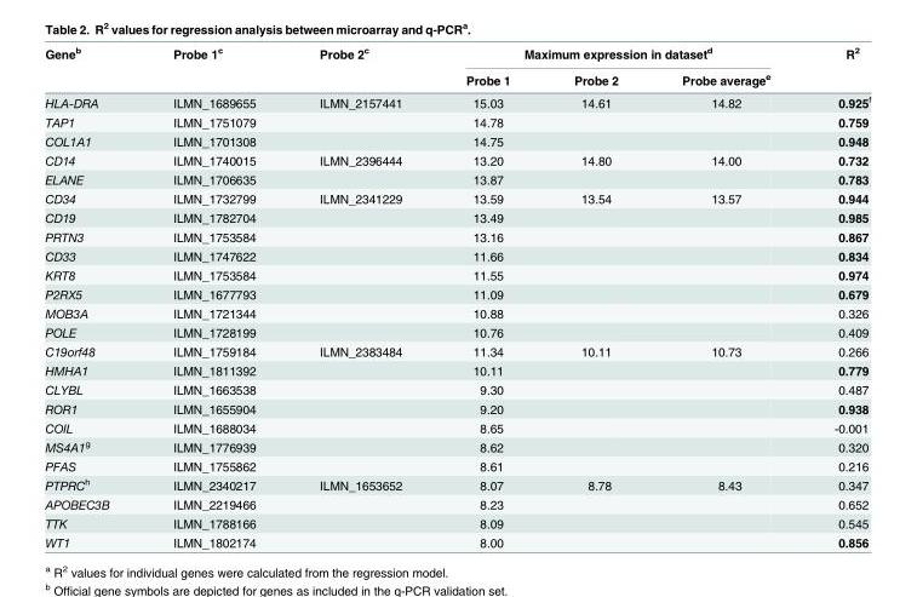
<table><thead><tr><td rowspan="2">Gene<sup>b</sup></td><td rowspan="2">Probe 1<sup>c</sup></td><td rowspan="2">Probe 2<sup>c</sup></td><td colspan="3">Maximum expression in dataset<sup>d</sup></td><td rowspan="2">R<sup>2</sup></td></tr><tr><td>Probe 1</td><td>Probe 2</td><td>Probe average<sup>e</sup></td></tr></thead><tbody><tr><td>HLA-DRA</td><td>ILMN_1689655</td><td>ILMN_2157441</td><td>15.03</td><td>14.61</td><td>14.82</td><td>0.925<sup>f</sup></td></tr><tr><td>TAP1</td><td>ILMN_1751079</td><td></td><td>14.78</td><td></td><td></td><td>0.759</td></tr><tr><td>COL1A1</td><td>ILMN_1701308</td><td></td><td>14.75</td><td></td><td></td><td>0.948</td></tr><tr><td>CD14</td><td>ILMN_1740015</td><td>ILMN_2396444</td><td>13.20</td><td>14.80</td><td>14.00</td><td>0.732</td></tr><tr><td>ELANE</td><td>ILMN_1706635</td><td></td><td>13.87</td><td></td><td></td><td>0.783</td></tr><tr><td>CD34</td><td>ILMN_1732799</td><td>ILMN_2341229</td><td>13.59</td><td>13.54</td><td>13.57</td><td>0.944</td></tr><tr><td>CD19</td><td>ILMN_1782704</td><td></td><td>13.49</td><td></td><td></td><td>0.985</td></tr><tr><td>PRTN3</td><td>ILMN_1753584</td><td></td><td>13.16</td><td></td><td></td><td>0.867</td></tr><tr><td>CD33</td><td>ILMN_1747622</td><td></td><td>11.66</td><td></td><td></td><td>0.834</td></tr><tr><td>KRT8</td><td>ILMN_1753584</td><td></td><td>11.55</td><td></td><td></td><td>0.974</td></tr><tr><td>P2RX5</td><td>ILMN_1677793</td><td></td><td>11.09</td><td></td><td></td><td>0.679</td></tr><tr><td>MOB3A</td><td>ILMN_1721344</td><td></td><td>10.88</td><td></td><td></td><td>0.326</td></tr><tr><td>POLE</td><td>ILMN_1728199</td><td></td><td>10.76</td><td></td><td></td><td>0.409</td></tr><tr><td>C19orf48</td><td>ILMN_1759184</td><td>ILMN_2383484</td><td>11.34</td><td>10.11</td><td>10.73</td><td>0.266</td></tr><tr><td>HMHA1</td><td>ILMN_1811392</td><td></td><td>10.11</td><td></td><td></td><td>0.779</td></tr><tr><td>CLYBL</td><td>ILMN_1663538</td><td></td><td>9.30</td><td></td><td></td><td>0.487</td></tr><tr><td>ROR1</td><td>ILMN_1655904</td><td></td><td>9.20</td><td></td><td></td><td>0.938</td></tr><tr><td>COIL</td><td>ILMN_1688034</td><td></td><td>8.65</td><td></td><td></td><td>-0.001</td></tr><tr><td>MS4A1<sup>g</sup></td><td>ILMN_1776939</td><td></td><td>8.62</td><td></td><td></td><td>0.320</td></tr><tr><td>PFAS</td><td>ILMN_1755862</td><td></td><td>8.61</td><td></td><td></td><td>0.216</td></tr><tr><td>PTPRC<sup>h</sup></td><td>ILMN_2340217</td><td>ILMN_1653652</td><td>8.07</td><td>8.78</td><td>8.43</td><td>0.347</td></tr><tr><td>APOBEC3B</td><td>ILMN_2219466</td><td></td><td>8.23</td><td></td><td></td><td>0.652</td></tr><tr><td>TTK</td><td>ILMN_1788166</td><td></td><td>8.09</td><td></td><td></td><td>0.545</td></tr><tr><td>WT1</td><td>ILMN_1802174</td><td></td><td>8.00</td><td></td><td></td><td>0.856</td></tr></tbody></table>